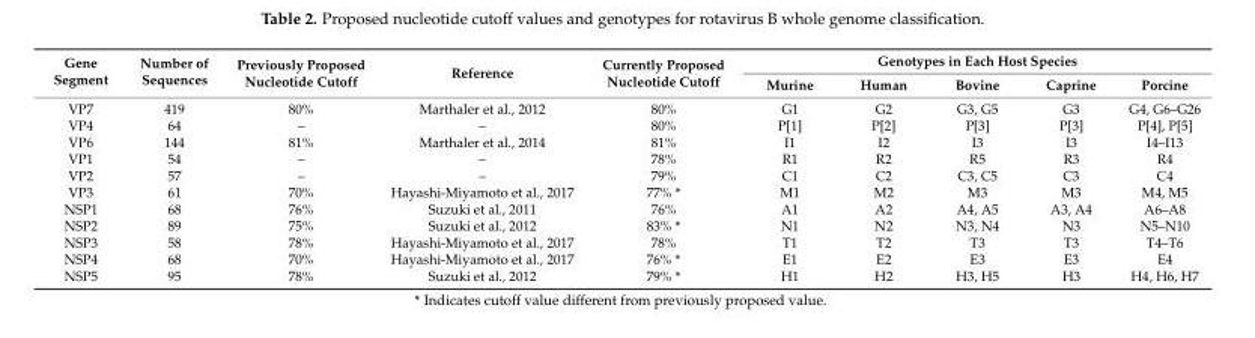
<table><thead><tr><td rowspan="2">Gene Segment</td><td rowspan="2">Number of Sequences</td><td rowspan="2">Previously Proposed Nucleotide Cutoff</td><td rowspan="2">Reference</td><td rowspan="2">Currently Proposed Nucleotide Cutoff</td><td colspan="5">Genotypes in Each Host Species</td></tr><tr><td>Murine</td><td>Human</td><td>Bovine</td><td>Caprine</td><td>Porcine</td></tr></thead><tbody><tr><td>VP7</td><td>419</td><td>80%</td><td>Marthaler et al., 2012</td><td>80%</td><td>G1</td><td>G2</td><td>G3, G5</td><td>G3</td><td>G4, G6–G26</td></tr><tr><td>VP4</td><td>64</td><td>–</td><td>–</td><td>80%</td><td>P[1]</td><td>P[2]</td><td>P[3]</td><td>P[3]</td><td>P[4], P[5]</td></tr><tr><td>VP6</td><td>144</td><td>81%</td><td>Marthaler et al., 2014</td><td>81%</td><td>I1</td><td>I2</td><td>I3</td><td>I3</td><td>I4–I13</td></tr><tr><td>VP1</td><td>54</td><td>–</td><td>–</td><td>78%</td><td>R1</td><td>R2</td><td>R5</td><td>R3</td><td>R4</td></tr><tr><td>VP2</td><td>57</td><td>–</td><td>–</td><td>79%</td><td>C1</td><td>C2</td><td>C3, C5</td><td>C3</td><td>C4</td></tr><tr><td>VP3</td><td>61</td><td>70%</td><td>Hayashi-Miyamoto et al., 2017</td><td>77% *</td><td>M1</td><td>M2</td><td>M3</td><td>M3</td><td>M4, M5</td></tr><tr><td>NSP1</td><td>68</td><td>76%</td><td>Suzuki et al., 2011</td><td>76%</td><td>A1</td><td>A2</td><td>A4, A5</td><td>A3, A4</td><td>A6–A8</td></tr><tr><td>NSP2</td><td>89</td><td>75%</td><td>Suzuki et al., 2012</td><td>83% *</td><td>N1</td><td>N2</td><td>N3, N4</td><td>N3</td><td>N5–N10</td></tr><tr><td>NSP3</td><td>58</td><td>78%</td><td>Hayashi-Miyamoto et al., 2017</td><td>78%</td><td>T1</td><td>T2</td><td>T3</td><td>T3</td><td>T4–T6</td></tr><tr><td>NSP4</td><td>68</td><td>70%</td><td>Hayashi-Miyamoto et al., 2017</td><td>76% *</td><td>E1</td><td>E2</td><td>E3</td><td>E3</td><td>E4</td></tr><tr><td>NSP5</td><td>95</td><td>78%</td><td>Suzuki et al., 2012</td><td>79% *</td><td>H1</td><td>H2</td><td>H3, H5</td><td>H3</td><td>H4, H6, H7</td></tr></tbody></table>